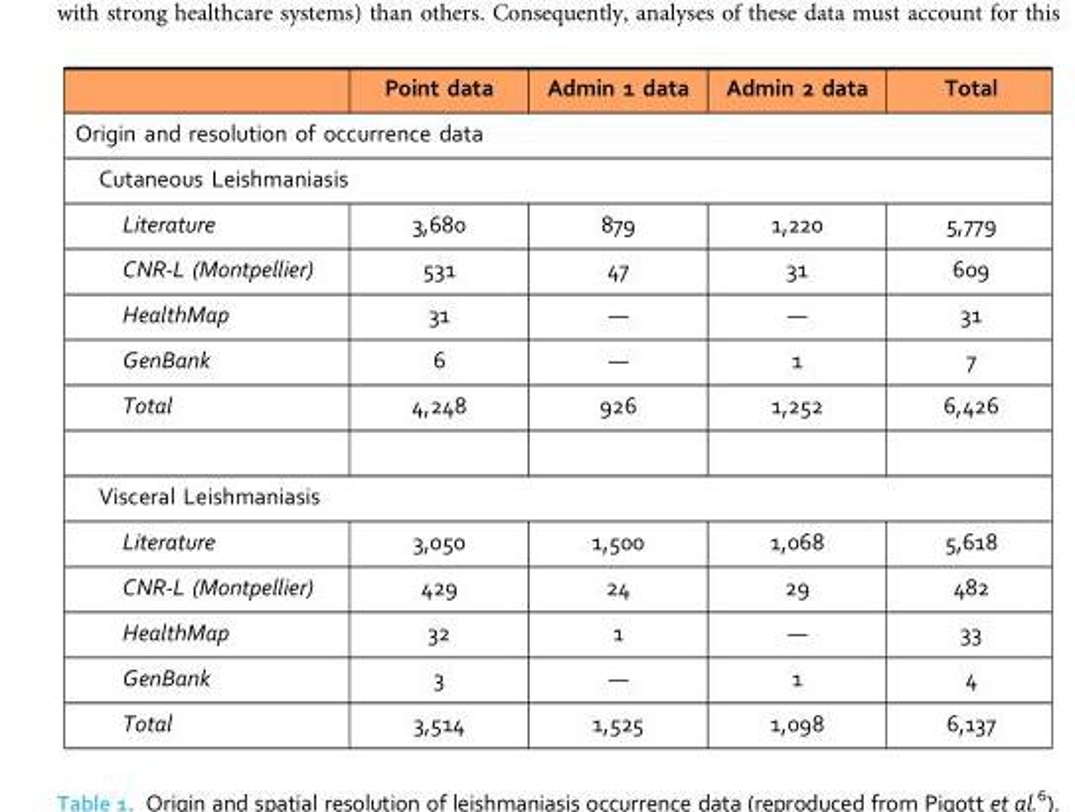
<table><thead><tr><td></td><td>Point data</td><td>Admin 1 data</td><td>Admin 2 data</td><td>Total</td></tr></thead><tbody><tr><td colspan="5">Origin and resolution of occurrence data</td></tr><tr><td colspan="5">Cutaneous Leishmaniasis</td></tr><tr><td>Literature</td><td>3,680</td><td>879</td><td>1,220</td><td>5,779</td></tr><tr><td>CNR-L (Montpellier)</td><td>531</td><td>47</td><td>31</td><td>609</td></tr><tr><td>HealthMap</td><td>31</td><td>—</td><td>—</td><td>31</td></tr><tr><td>GenBank</td><td>6</td><td>—</td><td>1</td><td>7</td></tr><tr><td>Total</td><td>4,248</td><td>926</td><td>1,252</td><td>6,426</td></tr><tr><td colspan="5">Visceral Leishmaniasis</td></tr><tr><td>Literature</td><td>3,050</td><td>1,500</td><td>1,068</td><td>5,618</td></tr><tr><td>CNR-L (Montpellier)</td><td>429</td><td>24</td><td>29</td><td>482</td></tr><tr><td>HealthMap</td><td>32</td><td>1</td><td>—</td><td>33</td></tr><tr><td>GenBank</td><td>3</td><td>—</td><td>1</td><td>4</td></tr><tr><td>Total</td><td>3,514</td><td>1,525</td><td>1,098</td><td>6,137</td></tr></tbody></table>